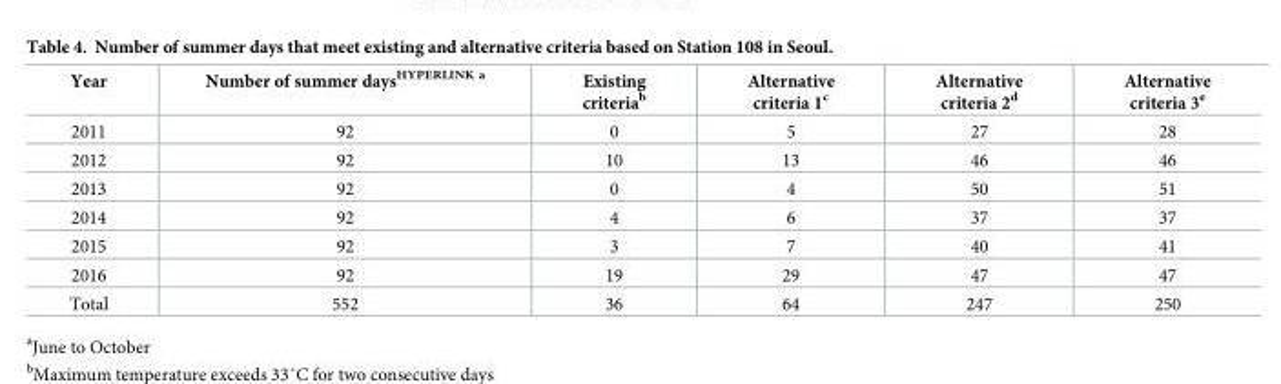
<table><thead><tr><td>Year</td><td>Number of summer days<sup>HYPERLINK a</sup></td><td>Existing criteria<sup>b</sup></td><td>Alternative criteria 1<sup>c</sup></td><td>Alternative criteria 2<sup>d</sup></td><td>Alternative criteria 3<sup>e</sup></td></tr></thead><tbody><tr><td>2011</td><td>92</td><td>0</td><td>5</td><td>27</td><td>28</td></tr><tr><td>2012</td><td>92</td><td>10</td><td>13</td><td>46</td><td>46</td></tr><tr><td>2013</td><td>92</td><td>0</td><td>4</td><td>50</td><td>51</td></tr><tr><td>2014</td><td>92</td><td>4</td><td>6</td><td>37</td><td>37</td></tr><tr><td>2015</td><td>92</td><td>3</td><td>7</td><td>40</td><td>41</td></tr><tr><td>2016</td><td>92</td><td>19</td><td>29</td><td>47</td><td>47</td></tr><tr><td>Total</td><td>552</td><td>36</td><td>64</td><td>247</td><td>250</td></tr></tbody></table>